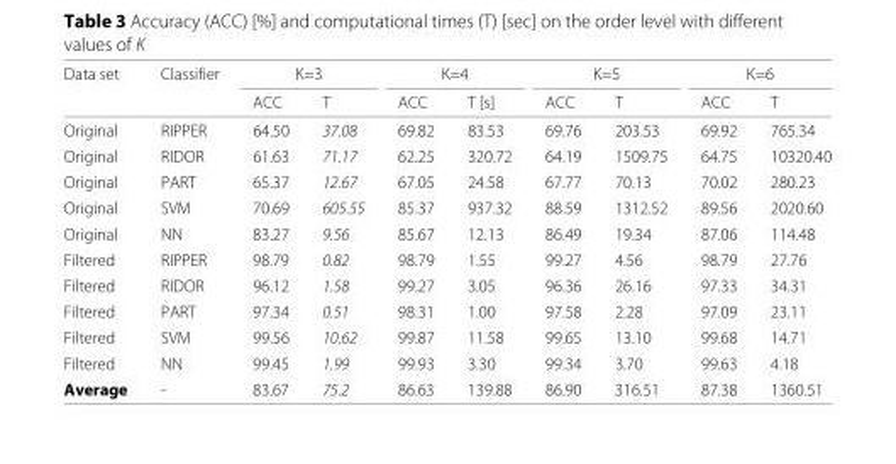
<table><thead><tr><td rowspan="2">Data set</td><td rowspan="2">Classifier</td><td colspan="2">K=3</td><td colspan="2">K=4</td><td colspan="2">K=5</td><td colspan="2">K=6</td></tr><tr><td>ACC</td><td>T</td><td>ACC</td><td>T [s]</td><td>ACC</td><td>T</td><td>ACC</td><td>T</td></tr></thead><tbody><tr><td>Original</td><td>RIPPER</td><td>64.50</td><td>37.08</td><td>69.82</td><td>83.53</td><td>69.76</td><td>203.53</td><td>69.92</td><td>765.34</td></tr><tr><td>Original</td><td>RIDOR</td><td>61.63</td><td>71.17</td><td>62.25</td><td>320.72</td><td>64.19</td><td>1509.75</td><td>64.75</td><td>10320.40</td></tr><tr><td>Original</td><td>PART</td><td>65.37</td><td>12.67</td><td>67.05</td><td>24.58</td><td>67.77</td><td>70.13</td><td>70.02</td><td>280.23</td></tr><tr><td>Original</td><td>SVM</td><td>70.69</td><td>605.55</td><td>85.37</td><td>937.32</td><td>88.59</td><td>1312.52</td><td>89.56</td><td>2020.60</td></tr><tr><td>Original</td><td>NN</td><td>83.27</td><td>9.56</td><td>85.67</td><td>12.13</td><td>86.49</td><td>19.34</td><td>87.06</td><td>114.48</td></tr><tr><td>Filtered</td><td>RIPPER</td><td>98.79</td><td>0.82</td><td>98.79</td><td>1.55</td><td>99.27</td><td>4.56</td><td>98.79</td><td>27.76</td></tr><tr><td>Filtered</td><td>RIDOR</td><td>96.12</td><td>1.58</td><td>99.27</td><td>3.05</td><td>96.36</td><td>26.16</td><td>97.33</td><td>34.31</td></tr><tr><td>Filtered</td><td>PART</td><td>97.34</td><td>0.51</td><td>98.31</td><td>1.00</td><td>97.58</td><td>2.28</td><td>97.09</td><td>23.11</td></tr><tr><td>Filtered</td><td>SVM</td><td>99.56</td><td>10.62</td><td>99.87</td><td>11.58</td><td>99.65</td><td>13.10</td><td>99.68</td><td>14.71</td></tr><tr><td>Filtered</td><td>NN</td><td>99.45</td><td>1.99</td><td>99.93</td><td>3.30</td><td>99.34</td><td>3.70</td><td>99.63</td><td>4.18</td></tr><tr><td>Average</td><td>-</td><td>83.67</td><td>75.2</td><td>86.63</td><td>139.88</td><td>86.90</td><td>316.51</td><td>87.38</td><td>1360.51</td></tr></tbody></table>